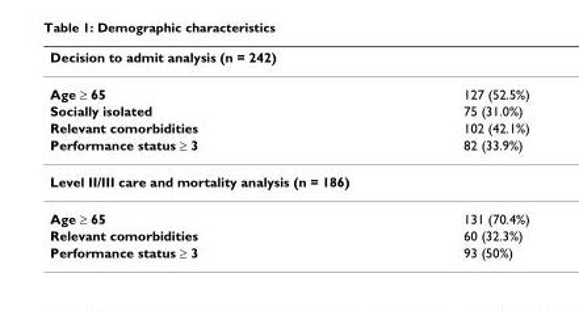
<table><thead><tr><td colspan="2">Decision to admit analysis (n = 242)</td></tr><tr><td>Age ≥ 65</td><td>127 (52.5%)</td></tr></thead><tbody><tr><td>Socially isolated</td><td>75 (31.0%)</td></tr><tr><td>Relevant comorbidities</td><td>102 (42.1%)</td></tr><tr><td>Performance status ≥ 3</td><td>82 (33.9%)</td></tr><tr><td colspan="2">Level II/III care and mortality analysis (n = 186)</td></tr><tr><td>Age ≥ 65</td><td>131 (70.4%)</td></tr><tr><td>Relevant comorbidities</td><td>60 (32.3%)</td></tr><tr><td>Performance status ≥ 3</td><td>93 (50%)</td></tr></tbody></table>